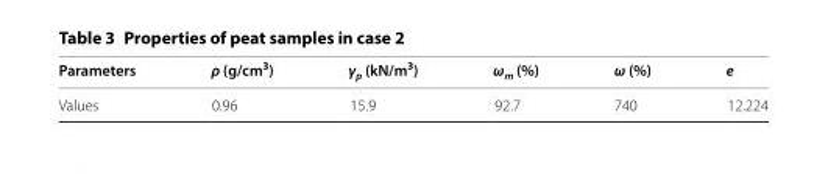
<table><thead><tr><td>Parameters</td><td>ρ (g/cm<sup>3</sup>)</td><td>γ<sub>p</sub> (kN/m<sup>3</sup>)</td><td>ω<sub>m</sub> (%)</td><td>ω (%)</td><td>e</td></tr></thead><tbody><tr><td>Values</td><td>0.96</td><td>15.9</td><td>92.7</td><td>740</td><td>12.224</td></tr></tbody></table>